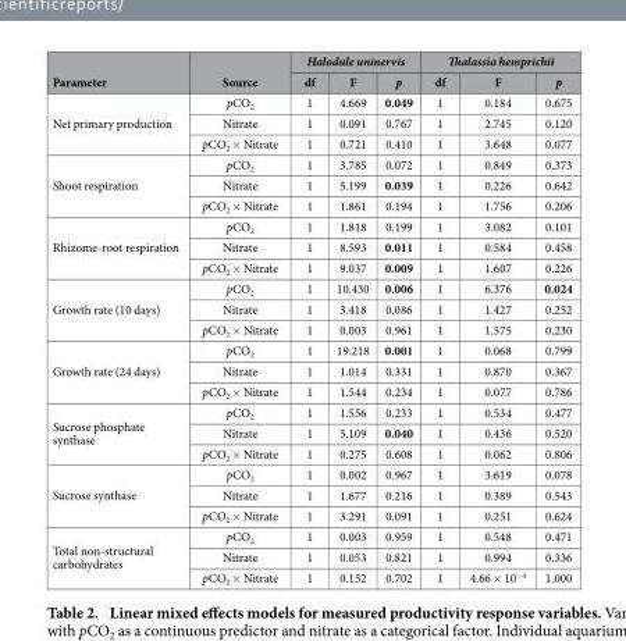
<table><thead><tr><td rowspan="2">Parameter</td><td rowspan="2">Source</td><td colspan="3">Halodule uninervis</td><td colspan="3">Thalassia hemprichii</td></tr><tr><td>df</td><td>F</td><td>p</td><td>df</td><td>F</td><td>p</td></tr></thead><tbody><tr><td rowspan="3">Net primary production</td><td>pCO<sub>2</sub></td><td>1</td><td>4.669</td><td>0.049</td><td>1</td><td>0.184</td><td>0.675</td></tr><tr><td>Nitrate</td><td>1</td><td>0.091</td><td>0.767</td><td>1</td><td>2.745</td><td>0.120</td></tr><tr><td>pCO<sub>2</sub> × Nitrate</td><td>1</td><td>0.721</td><td>0.410</td><td>1</td><td>3.648</td><td>0.077</td></tr><tr><td rowspan="3">Shoot respiration</td><td>pCO<sub>2</sub></td><td>1</td><td>3.785</td><td>0.072</td><td>1</td><td>0.849</td><td>0.373</td></tr><tr><td>Nitrate</td><td>1</td><td>5.199</td><td>0.039</td><td>1</td><td>0.226</td><td>0.642</td></tr><tr><td>pCO<sub>2</sub> × Nitrate</td><td>1</td><td>1.861</td><td>0.194</td><td>1</td><td>1.756</td><td>0.206</td></tr><tr><td rowspan="3">Rhizome-root respiration</td><td>pCO<sub>2</sub></td><td>1</td><td>1.818</td><td>0.199</td><td>1</td><td>3.082</td><td>0.101</td></tr><tr><td>Nitrate</td><td>1</td><td>8.593</td><td>0.011</td><td>1</td><td>0.584</td><td>0.458</td></tr><tr><td>pCO<sub>2</sub> × Nitrate</td><td>1</td><td>9.037</td><td>0.009</td><td>1</td><td>1.607</td><td>0.226</td></tr><tr><td rowspan="3">Growth rate (10 days)</td><td>pCO<sub>2</sub></td><td>1</td><td>10.430</td><td>0.006</td><td>1</td><td>6.376</td><td>0.024</td></tr><tr><td>Nitrate</td><td>1</td><td>3.418</td><td>0.086</td><td>1</td><td>1.427</td><td>0.252</td></tr><tr><td>pCO<sub>2</sub> × Nitrate</td><td>1</td><td>0.003</td><td>0.961</td><td>1</td><td>1.575</td><td>0.230</td></tr><tr><td rowspan="3">Growth rate (24 days)</td><td>pCO<sub>2</sub></td><td>1</td><td>19.218</td><td>0.001</td><td>1</td><td>0.068</td><td>0.799</td></tr><tr><td>Nitrate</td><td>1</td><td>1.014</td><td>0.331</td><td>1</td><td>0.870</td><td>0.367</td></tr><tr><td>pCO<sub>2</sub> × Nitrate</td><td>1</td><td>1.544</td><td>0.234</td><td>1</td><td>0.077</td><td>0.786</td></tr><tr><td rowspan="3">Sucrose phosphate synthase</td><td>pCO<sub>2</sub></td><td>1</td><td>1.556</td><td>0.233</td><td>1</td><td>0.534</td><td>0.477</td></tr><tr><td>Nitrate</td><td>1</td><td>5.109</td><td>0.040</td><td>1</td><td>0.436</td><td>0.520</td></tr><tr><td>pCO<sub>2</sub> × Nitrate</td><td>1</td><td>0.275</td><td>0.608</td><td>1</td><td>0.062</td><td>0.806</td></tr><tr><td rowspan="3">Sucrose synthase</td><td>pCO<sub>2</sub></td><td>1</td><td>0.002</td><td>0.967</td><td>1</td><td>3.619</td><td>0.078</td></tr><tr><td>Nitrate</td><td>1</td><td>1.677</td><td>0.216</td><td>1</td><td>0.389</td><td>0.543</td></tr><tr><td>pCO<sub>2</sub> × Nitrate</td><td>1</td><td>3.291</td><td>0.091</td><td>1</td><td>0.251</td><td>0.624</td></tr><tr><td rowspan="3">Total non-structural carbohydrates</td><td>pCO<sub>2</sub></td><td>1</td><td>0.003</td><td>0.959</td><td>1</td><td>0.548</td><td>0.471</td></tr><tr><td>Nitrate</td><td>1</td><td>0.053</td><td>0.821</td><td>1</td><td>0.994</td><td>0.336</td></tr><tr><td>pCO<sub>2</sub> × Nitrate</td><td>1</td><td>0.152</td><td>0.702</td><td>1</td><td>4.66 × 10<sup>−4</sup></td><td>1.000</td></tr></tbody></table>